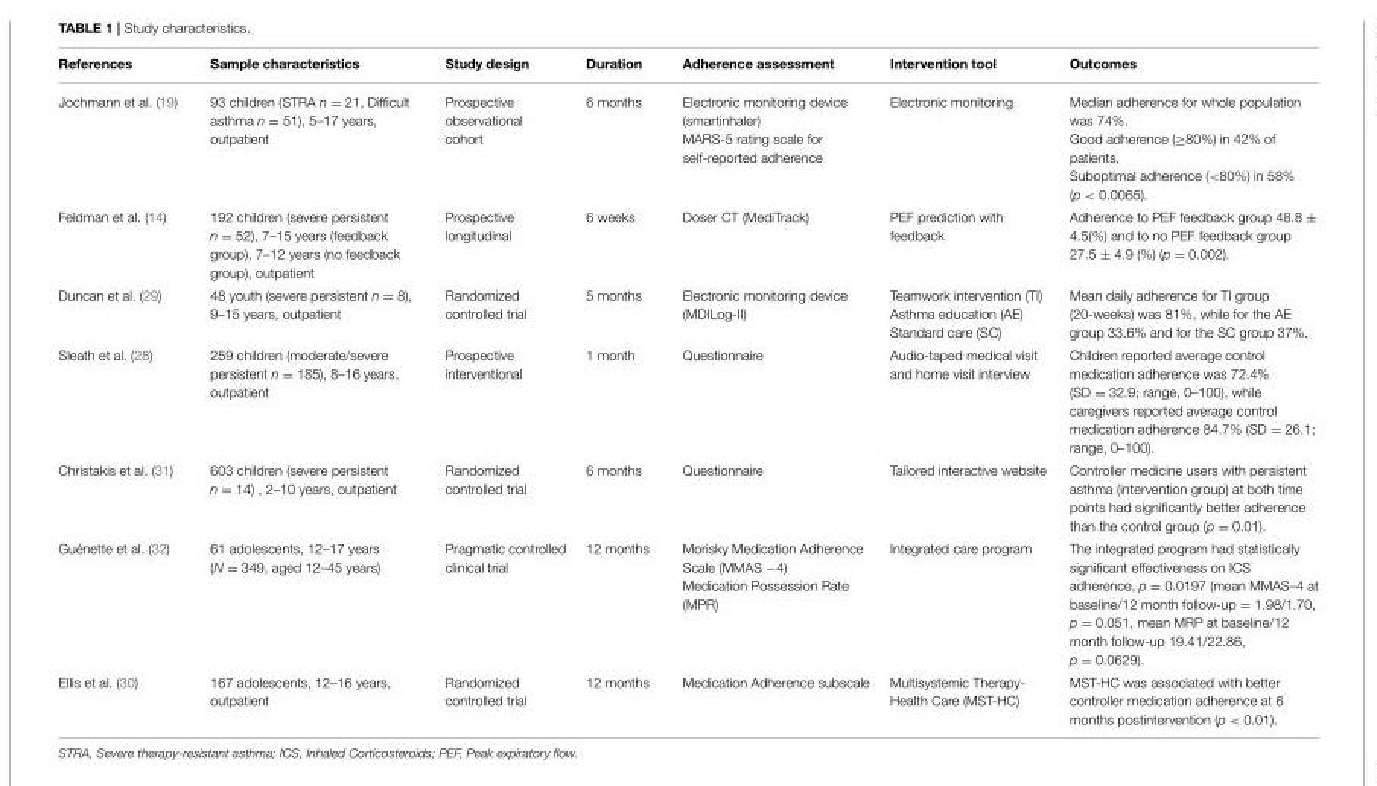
<table><thead><tr><td>References</td><td>Sample characteristics</td><td>Study design</td><td>Duration</td><td>Adherence assessment</td><td>Intervention tool</td><td>Outcomes</td></tr></thead><tbody><tr><td>Jochmann et al. (19)</td><td>93 children (STRA n = 21, Difficult asthma n = 51), 5–17 years, outpatient</td><td>Prospective observational cohort</td><td>6 months</td><td>Electronic monitoring device (smartinhaler) MARS-5 rating scale for self-reported adherence</td><td>Electronic monitoring</td><td>Median adherence for whole population was 74%. Good adherence (≥80%) in 42% of patients, Suboptimal adherence (&lt;80%) in 58% (p &lt; 0.0065).</td></tr><tr><td>Feldman et al. (14)</td><td>192 children (severe persistent n = 52), 7–15 years (feedback group), 7–12 years (no feedback group), outpatient</td><td>Prospective longitudinal</td><td>6 weeks</td><td>Doser CT (MediTrack)</td><td>PEF prediction with feedback</td><td>Adherence to PEF feedback group 48.8 ± 4.5(%) and to no PEF feedback group 27.5 ± 4.9 (%) (p = 0.002).</td></tr><tr><td>Duncan et al. (29)</td><td>48 youth (severe persistent n = 8), 9–15 years, outpatient</td><td>Randomized controlled trial</td><td>5 months</td><td>Electronic monitoring device (MDILog-II)</td><td>Teamwork intervention (TI) Asthma education (AE) Standard care (SC)</td><td>Mean daily adherence for TI group (20-weeks) was 81%, while for the AE group 33.6% and for the SC group 37%.</td></tr><tr><td>Sleath et al. (28)</td><td>259 children (moderate/severe persistent n = 185), 8–16 years, outpatient</td><td>Prospective interventional</td><td>1 month</td><td>Questionnaire</td><td>Audio-taped medical visit and home visit interview</td><td>Children reported average control medication adherence was 72.4% (SD = 32.9; range, 0–100), while caregivers reported average control medication adherence 84.7% (SD = 26.1; range, 0–100).</td></tr><tr><td>Christakis et al. (31)</td><td>603 children (severe persistent n = 14) , 2–10 years, outpatient</td><td>Randomized controlled trial</td><td>6 months</td><td>Questionnaire</td><td>Tailored interactive website</td><td>Controller medicine users with persistent asthma (intervention group) at both time points had significantly better adherence than the control group (p = 0.01).</td></tr><tr><td>Guénette et al. (32)</td><td>61 adolescents, 12–17 years (N = 349, aged 12–45 years)</td><td>Pragmatic controlled clinical trial</td><td>12 months</td><td>Morisky Medication Adherence Scale (MMAS −4) Medication Possession Rate (MPR)</td><td>Integrated care program</td><td>The integrated program had statistically significant effectiveness on ICS adherence, p = 0.0197 (mean MMAS–4 at baseline/12 month follow-up = 1.98/1.70, p = 0.051, mean MRP at baseline/12 month follow-up 19.41/22.86, p = 0.0629).</td></tr><tr><td>Ellis et al. (30)</td><td>167 adolescents, 12–16 years, outpatient</td><td>Randomized controlled trial</td><td>12 months</td><td>Medication Adherence subscale</td><td>Multisystemic Therapy- Health Care (MST-HC)</td><td>MST-HC was associated with better controller medication adherence at 6 months postintervention (p &lt; 0.01).</td></tr></tbody></table>